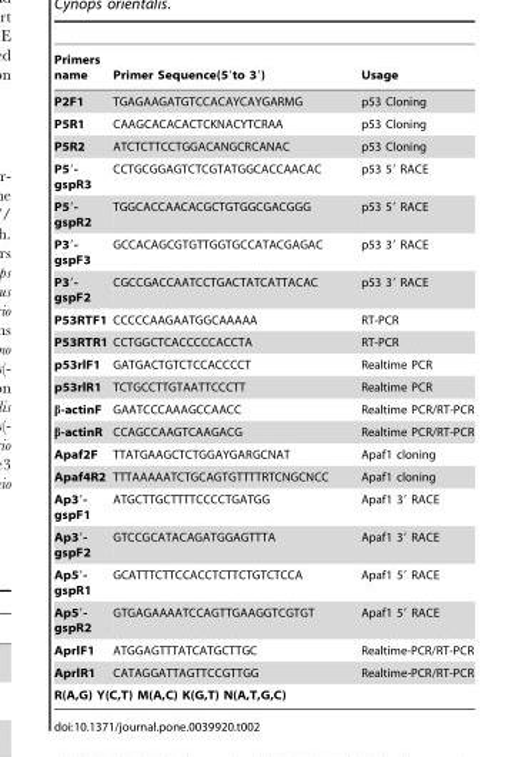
<table><thead><tr><td>Primers name</td><td>Primer Sequence(5′to 3′)</td><td>Usage</td></tr></thead><tbody><tr><td>P2F1</td><td>TGAGAAGATGTCCACAYCAYGARMG</td><td>p53 Cloning</td></tr><tr><td>P5R1</td><td>CAAGCACACACTCKNACYTCRAA</td><td>p53 Cloning</td></tr><tr><td>P5R2</td><td>ATCTCTTCCTGGACANGCRCANAC</td><td>p53 Cloning</td></tr><tr><td>P5′- gspR3</td><td>CCTGCGGAGTCTCGTATGGCACCAACAC</td><td>p53 5′ RACE</td></tr><tr><td>P5′- gspR2</td><td>TGGCACCAACACGCTGTGGCGACGGG</td><td>p53 5′ RACE</td></tr><tr><td>P3′- gspF3</td><td>GCCACAGCGTGTTGGTGCCATACGAGAC</td><td>p53 3′ RACE</td></tr><tr><td>P3′- gspF2</td><td>CGCCGACCAATCCTGACTATCATTACAC</td><td>p53 3′ RACE</td></tr><tr><td>P53RTF1</td><td>CCCCCAAGAATGGCAAAAA</td><td>RT-PCR</td></tr><tr><td>P53RTR1</td><td>CCTGGCTCACCCCCACCTA</td><td>RT-PCR</td></tr><tr><td>p53rlF1</td><td>GATGACTGTCTCCACCCCT</td><td>Realtime PCR</td></tr><tr><td>p53rlR1</td><td>TCTGCCTTGTAATTCCCTT</td><td>Realtime PCR</td></tr><tr><td>β-actinF</td><td>GAATCCCAAAGCCAACC</td><td>Realtime PCR/RT-PCR</td></tr><tr><td>β-actinR</td><td>CCAGCCAAGTCAAGACG</td><td>Realtime PCR/RT-PCR</td></tr><tr><td>Apaf2F</td><td>TTATGAAGCTCTGGAYGARGCNAT</td><td>Apaf1 cloning</td></tr><tr><td>Apaf4R2</td><td>TTTAAAAATCTGCAGTGTTTTRTCNGCNCC</td><td>Apaf1 cloning</td></tr><tr><td>Ap3′- gspF1</td><td>ATGCTTGCTTTTCCCCTGATGG</td><td>Apaf1 3′ RACE</td></tr><tr><td>Ap3′- gspF2</td><td>GTCCGCATACAGATGGAGTTTA</td><td>Apaf1 3′ RACE</td></tr><tr><td>Ap5′- gspR1</td><td>GCATTTCTTCCACCTCTTCTGTCTCCA</td><td>Apaf1 5′ RACE</td></tr><tr><td>Ap5′- gspR2</td><td>GTGAGAAAATCCAGTTGAAGGTCGTGT</td><td>Apaf1 5′ RACE</td></tr><tr><td>AprlF1</td><td>ATGGAGTTTATCATGCTTGC</td><td>Realtime-PCR/RT-PCR</td></tr><tr><td>AprlR1</td><td>CATAGGATTAGTTCCGTTGG</td><td>Realtime-PCR/RT-PCR</td></tr><tr><td colspan="3">R(A,G) Y(C,T) M(A,C) K(G,T) N(A,T,G,C)</td></tr></tbody></table>